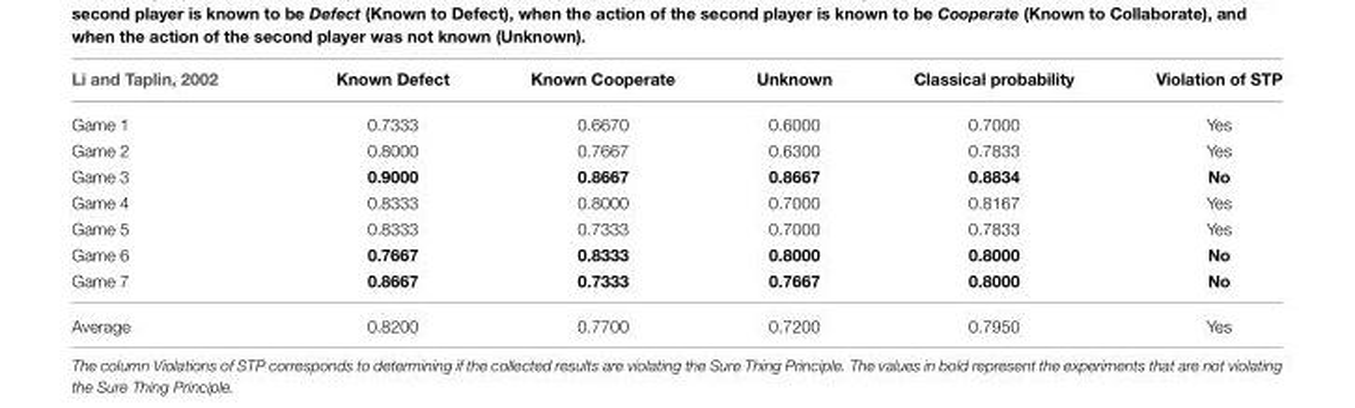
<table><thead><tr><td>Li and Taplin, 2002</td><td>Known Defect</td><td>Known Cooperate</td><td>Unknown</td><td>Classical probability</td><td>Violation of STP</td></tr></thead><tbody><tr><td>Game 1</td><td>0.7333</td><td>0.6670</td><td>0.6000</td><td>0.7000</td><td>Yes</td></tr><tr><td>Game 2</td><td>0.8000</td><td>0.7667</td><td>0.6300</td><td>0.7833</td><td>Yes</td></tr><tr><td>Game 3</td><td>0.9000</td><td>0.8667</td><td>0.8667</td><td>0.8834</td><td>No</td></tr><tr><td>Game 4</td><td>0.8333</td><td>0.8000</td><td>0.7000</td><td>0.8167</td><td>Yes</td></tr><tr><td>Game 5</td><td>0.8333</td><td>0.7333</td><td>0.7000</td><td>0.7833</td><td>Yes</td></tr><tr><td>Game 6</td><td>0.7667</td><td>0.8333</td><td>0.8000</td><td>0.8000</td><td>No</td></tr><tr><td>Game 7</td><td>0.8667</td><td>0.7333</td><td>0.7667</td><td>0.8000</td><td>No</td></tr><tr><td>Average</td><td>0.8200</td><td>0.7700</td><td>0.7200</td><td>0.7950</td><td>Yes</td></tr></tbody></table>